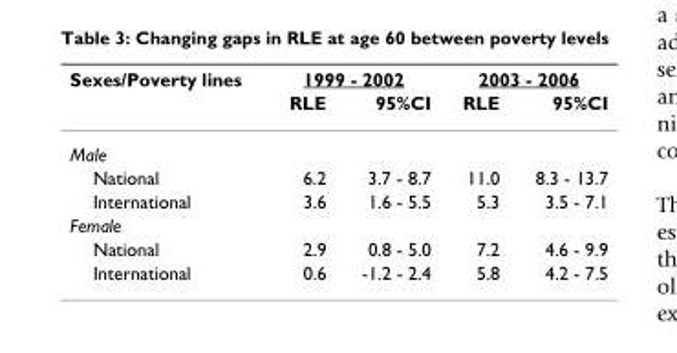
<table><thead><tr><td rowspan="2">Sexes/Poverty lines</td><td colspan="2">1999 - 2002</td><td colspan="2">2003 - 2006</td></tr><tr><td>RLE</td><td>95%CI</td><td>RLE</td><td>95%CI</td></tr></thead><tbody><tr><td colspan="5">Male</td></tr><tr><td>National</td><td>6.2</td><td>3.7 - 8.7</td><td>11.0</td><td>8.3 - 13.7</td></tr><tr><td>International</td><td>3.6</td><td>1.6 - 5.5</td><td>5.3</td><td>3.5 - 7.1</td></tr><tr><td colspan="5">Female</td></tr><tr><td>National</td><td>2.9</td><td>0.8 - 5.0</td><td>7.2</td><td>4.6 - 9.9</td></tr><tr><td>International</td><td>0.6</td><td>-1.2 - 2.4</td><td>5.8</td><td>4.2 - 7.5</td></tr></tbody></table>